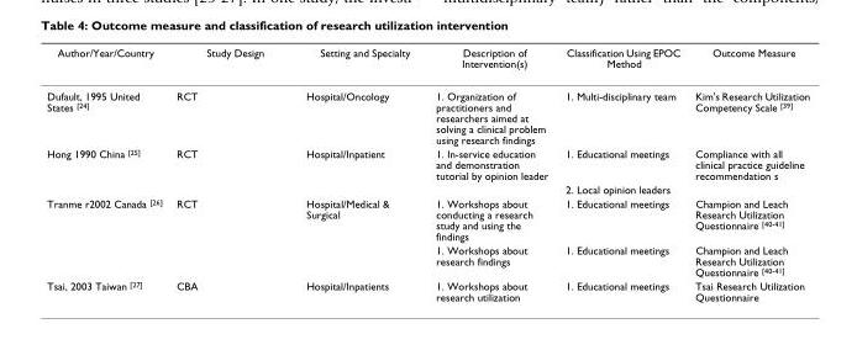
<table><thead><tr><td>Author/Year/Country</td><td>Study Design</td><td>Setting and Specialty</td><td>Description of Intervention(s)</td><td>Classification Using EPOC Method</td><td>Outcome Measure</td></tr></thead><tbody><tr><td>Dufault, 1995 United States <sup>[24]</sup></td><td>RCT</td><td>Hospital/Oncology</td><td>1. Organization of practitioners and researchers aimed at solving a clinical problem using research findings</td><td>1. Multi-disciplinary team</td><td>Kim&#x27;s Research Utilization Competency Scale <sup>[39]</sup></td></tr><tr><td rowspan="2">Hong 1990 China <sup>[25]</sup></td><td>RCT</td><td>Hospital/Inpatient</td><td>1. In-service education and demonstration tutorial by opinion leader</td><td>1. Educational meetings</td><td>Compliance with all clinical practice guideline recommendation s</td></tr><tr><td></td><td></td><td></td><td>2. Local opinion leaders</td><td></td></tr><tr><td rowspan="2">Tranme r2002 Canada <sup>[26]</sup></td><td>RCT</td><td>Hospital/Medical &amp; Surgical</td><td>1. Workshops about conducting a research study and using the findings</td><td>1. Educational meetings</td><td>Champion and Leach Research Utilization Questionnaire <sup>[40-41]</sup></td></tr><tr><td></td><td></td><td>1. Workshops about research findings</td><td>1. Educational meetings</td><td>Champion and Leach Research Utilization Questionnaire <sup>[40-41]</sup></td></tr><tr><td>Tsai, 2003 Taiwan <sup>[27]</sup></td><td>CBA</td><td>Hospital/Inpatients</td><td>1. Workshops about research utilization</td><td>1. Educational meetings</td><td>Tsai Research Utilization Questionnaire</td></tr></tbody></table>